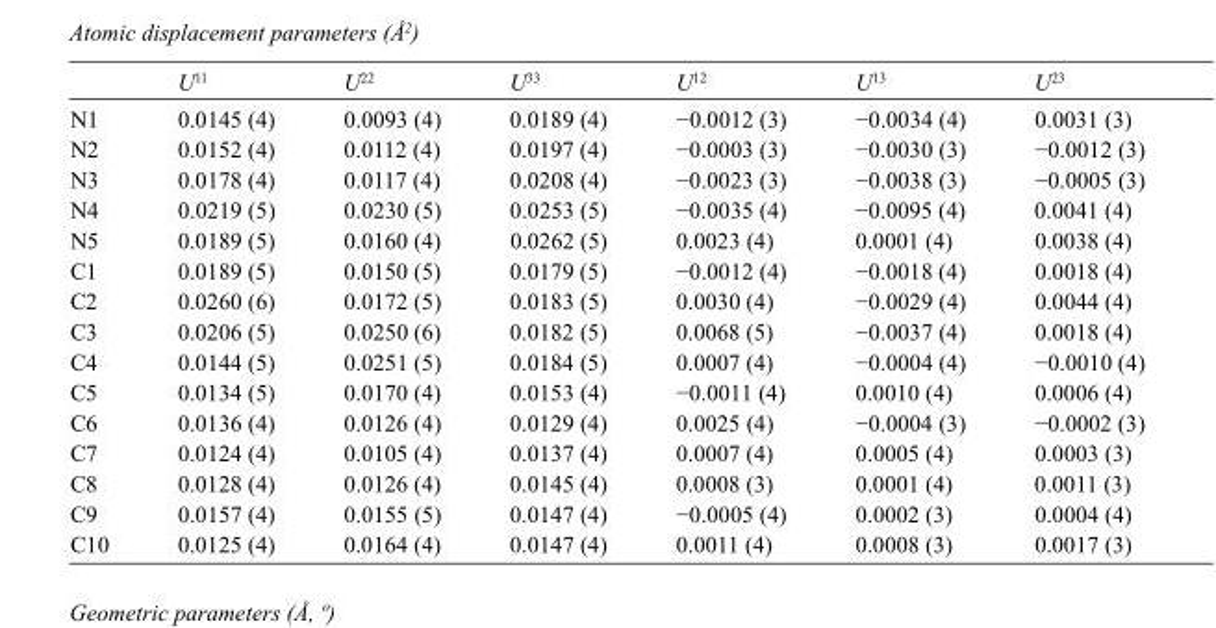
<table><thead><tr><td></td><td>U<sup>11</sup></td><td>U<sup>22</sup></td><td>U<sup>33</sup></td><td>U<sup>12</sup></td><td>U<sup>13</sup></td><td>U<sup>23</sup></td></tr></thead><tbody><tr><td>N1</td><td>0.0145 (4)</td><td>0.0093 (4)</td><td>0.0189 (4)</td><td>−0.0012 (3)</td><td>−0.0034 (4)</td><td>0.0031 (3)</td></tr><tr><td>N2</td><td>0.0152 (4)</td><td>0.0112 (4)</td><td>0.0197 (4)</td><td>−0.0003 (3)</td><td>−0.0030 (3)</td><td>−0.0012 (3)</td></tr><tr><td>N3</td><td>0.0178 (4)</td><td>0.0117 (4)</td><td>0.0208 (4)</td><td>−0.0023 (3)</td><td>−0.0038 (3)</td><td>−0.0005 (3)</td></tr><tr><td>N4</td><td>0.0219 (5)</td><td>0.0230 (5)</td><td>0.0253 (5)</td><td>−0.0035 (4)</td><td>−0.0095 (4)</td><td>0.0041 (4)</td></tr><tr><td>N5</td><td>0.0189 (5)</td><td>0.0160 (4)</td><td>0.0262 (5)</td><td>0.0023 (4)</td><td>0.0001 (4)</td><td>0.0038 (4)</td></tr><tr><td>C1</td><td>0.0189 (5)</td><td>0.0150 (5)</td><td>0.0179 (5)</td><td>−0.0012 (4)</td><td>−0.0018 (4)</td><td>0.0018 (4)</td></tr><tr><td>C2</td><td>0.0260 (6)</td><td>0.0172 (5)</td><td>0.0183 (5)</td><td>0.0030 (4)</td><td>−0.0029 (4)</td><td>0.0044 (4)</td></tr><tr><td>C3</td><td>0.0206 (5)</td><td>0.0250 (6)</td><td>0.0182 (5)</td><td>0.0068 (5)</td><td>−0.0037 (4)</td><td>0.0018 (4)</td></tr><tr><td>C4</td><td>0.0144 (5)</td><td>0.0251 (5)</td><td>0.0184 (5)</td><td>0.0007 (4)</td><td>−0.0004 (4)</td><td>−0.0010 (4)</td></tr><tr><td>C5</td><td>0.0134 (5)</td><td>0.0170 (4)</td><td>0.0153 (4)</td><td>−0.0011 (4)</td><td>0.0010 (4)</td><td>0.0006 (4)</td></tr><tr><td>C6</td><td>0.0136 (4)</td><td>0.0126 (4)</td><td>0.0129 (4)</td><td>0.0025 (4)</td><td>−0.0004 (3)</td><td>−0.0002 (3)</td></tr><tr><td>C7</td><td>0.0124 (4)</td><td>0.0105 (4)</td><td>0.0137 (4)</td><td>0.0007 (4)</td><td>0.0005 (4)</td><td>0.0003 (3)</td></tr><tr><td>C8</td><td>0.0128 (4)</td><td>0.0126 (4)</td><td>0.0145 (4)</td><td>0.0008 (3)</td><td>0.0001 (4)</td><td>0.0011 (3)</td></tr><tr><td>C9</td><td>0.0157 (4)</td><td>0.0155 (5)</td><td>0.0147 (4)</td><td>−0.0005 (4)</td><td>0.0002 (3)</td><td>0.0004 (4)</td></tr><tr><td>C10</td><td>0.0125 (4)</td><td>0.0164 (4)</td><td>0.0147 (4)</td><td>0.0011 (4)</td><td>0.0008 (3)</td><td>0.0017 (3)</td></tr></tbody></table>